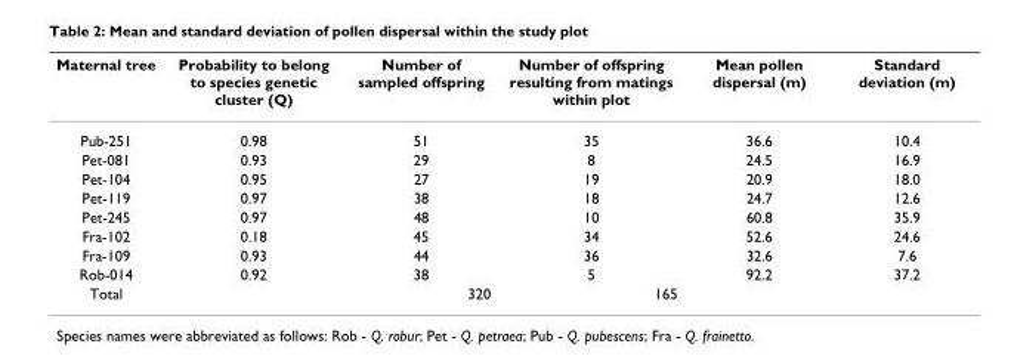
<table><thead><tr><td>Maternal tree</td><td>Probability to belong to species genetic cluster (Q)</td><td>Number of sampled offspring</td><td>Number of offspring resulting from matings within plot</td><td>Mean pollen dispersal (m)</td><td>Standard deviation (m)</td></tr></thead><tbody><tr><td>Pub-251</td><td>0.98</td><td>51</td><td>35</td><td>36.6</td><td>10.4</td></tr><tr><td>Pet-081</td><td>0.93</td><td>29</td><td>8</td><td>24.5</td><td>16.9</td></tr><tr><td>Pet-104</td><td>0.95</td><td>27</td><td>19</td><td>20.9</td><td>18.0</td></tr><tr><td>Pet-119</td><td>0.97</td><td>38</td><td>18</td><td>24.7</td><td>12.6</td></tr><tr><td>Pet-245</td><td>0.97</td><td>48</td><td>10</td><td>60.8</td><td>35.9</td></tr><tr><td>Fra-102</td><td>0.18</td><td>45</td><td>34</td><td>52.6</td><td>24.6</td></tr><tr><td>Fra-109</td><td>0.93</td><td>44</td><td>36</td><td>32.6</td><td>7.6</td></tr><tr><td>Rob-014</td><td>0.92</td><td>38</td><td>5</td><td>92.2</td><td>37.2</td></tr><tr><td>Total</td><td></td><td>320</td><td>165</td><td></td><td></td></tr></tbody></table>